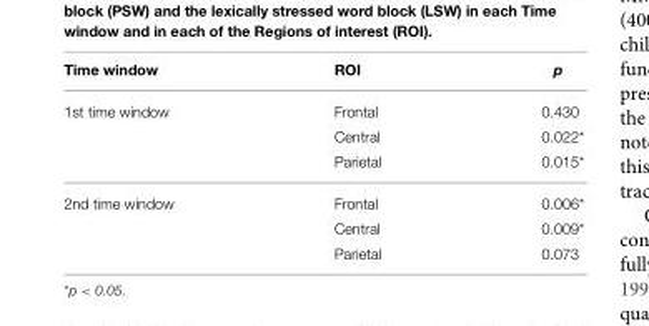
<table><thead><tr><td>Time window</td><td>ROI</td><td>p</td></tr></thead><tbody><tr><td rowspan="3">1st time window</td><td>Frontal</td><td>0.430</td></tr><tr><td>Central</td><td>0.022*</td></tr><tr><td>Parietal</td><td>0.015*</td></tr><tr><td rowspan="3">2nd time window</td><td>Frontal</td><td>0.006*</td></tr><tr><td>Central</td><td>0.009*</td></tr><tr><td>Parietal</td><td>0.073</td></tr></tbody></table>